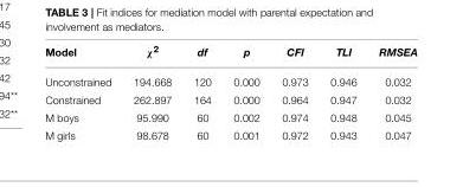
<table><thead><tr><td>Model</td><td>χ<sup>2</sup></td><td>df</td><td>p</td><td>CFI</td><td>TLI</td><td>RMSEA</td></tr></thead><tbody><tr><td>Unconstrained</td><td>194.668</td><td>120</td><td>0.000</td><td>0.973</td><td>0.946</td><td>0.032</td></tr><tr><td>Constrained</td><td>262.897</td><td>164</td><td>0.000</td><td>0.964</td><td>0.947</td><td>0.032</td></tr><tr><td>M boys</td><td>95.990</td><td>60</td><td>0.002</td><td>0.974</td><td>0.948</td><td>0.045</td></tr><tr><td>M girls</td><td>98.678</td><td>60</td><td>0.001</td><td>0.972</td><td>0.943</td><td>0.047</td></tr></tbody></table>